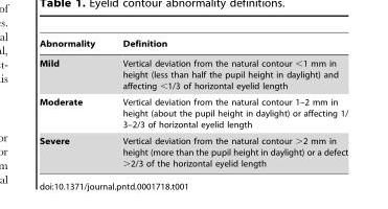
<table><thead><tr><td>Abnormality</td><td>Definition</td></tr></thead><tbody><tr><td>Mild</td><td>Vertical deviation from the natural contour &lt;1 mm in height (less than half the pupil height in daylight) and affecting &lt;1/3 of horizontal eyelid length</td></tr><tr><td>Moderate</td><td>Vertical deviation from the natural contour 1–2 mm in height (about the pupil height in daylight) or affecting 1/ 3–2/3 of horizontal eyelid length</td></tr><tr><td>Severe</td><td>Vertical deviation from the natural contour &gt;2 mm in height (more than the pupil height in daylight) or a defect &gt;2/3 of the horizontal eyelid length</td></tr></tbody></table>